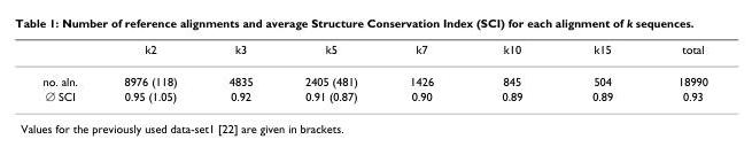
<table><thead><tr><td></td><td>k2</td><td>k3</td><td>k5</td><td>k7</td><td>k10</td><td>k15</td><td>total</td></tr></thead><tbody><tr><td>no. aln.</td><td>8976 (118)</td><td>4835</td><td>2405 (481)</td><td>1426</td><td>845</td><td>504</td><td>18990</td></tr><tr><td>∅ SCI</td><td>0.95 (1.05)</td><td>0.92</td><td>0.91 (0.87)</td><td>0.90</td><td>0.89</td><td>0.89</td><td>0.93</td></tr></tbody></table>